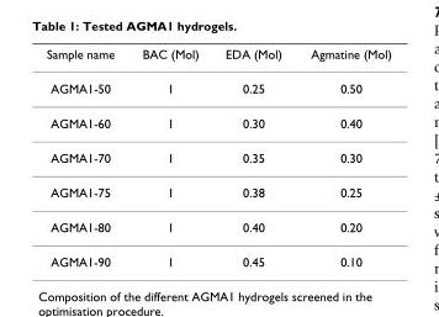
<table><thead><tr><td>Sample name</td><td>BAC (Mol)</td><td>EDA (Mol)</td><td>Agmatine (Mol)</td></tr></thead><tbody><tr><td>AGMA1-50</td><td>1</td><td>0.25</td><td>0.50</td></tr><tr><td>AGMA1-60</td><td>1</td><td>0.30</td><td>0.40</td></tr><tr><td>AGMA1-70</td><td>1</td><td>0.35</td><td>0.30</td></tr><tr><td>AGMA1-75</td><td>1</td><td>0.38</td><td>0.25</td></tr><tr><td>AGMA1-80</td><td>1</td><td>0.40</td><td>0.20</td></tr><tr><td>AGMA1-90</td><td>1</td><td>0.45</td><td>0.10</td></tr></tbody></table>